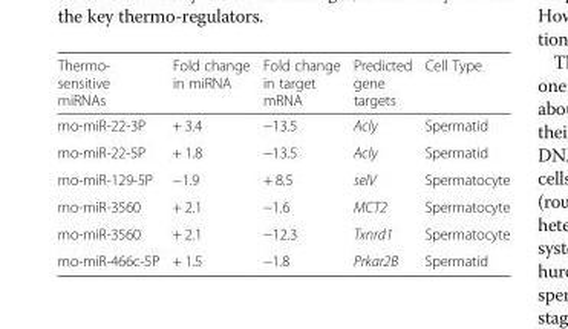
<table><thead><tr><td>Thermo- sensitive miRNAs</td><td>Fold change in miRNA</td><td>Fold change in target mRNA</td><td>Predicted gene targets</td><td>Cell Type</td></tr></thead><tbody><tr><td>rno-miR-22-3P</td><td>+ 3.4</td><td>−13.5</td><td>Acly</td><td>Spermatid</td></tr><tr><td>rno-miR-22-5P</td><td>+ 1.8</td><td>−13.5</td><td>Acly</td><td>Spermatid</td></tr><tr><td>rno-miR-129-5P</td><td>−1.9</td><td>+ 8.5</td><td>selV</td><td>Spermatocyte</td></tr><tr><td>rno-miR-3560</td><td>+ 2.1</td><td>−1.6</td><td>MCT2</td><td>Spermatocyte</td></tr><tr><td>rno-miR-3560</td><td>+ 2.1</td><td>−12.3</td><td>Txnrd1</td><td>Spermatocyte</td></tr><tr><td>rno-miR-466c-5P</td><td>+ 1.5</td><td>−1.8</td><td>Prkar2B</td><td>Spermatid</td></tr></tbody></table>